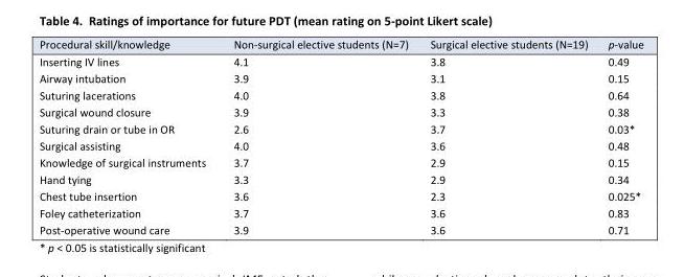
<table><thead><tr><td>Procedural skill/knowledge</td><td>Non-surgical elective students (N=7)</td><td>Surgical elective students (N=19)</td><td>p-value</td></tr></thead><tbody><tr><td>Inserting IV lines</td><td>4.1</td><td>3.8</td><td>0.49</td></tr><tr><td>Airway intubation</td><td>3.9</td><td>3.1</td><td>0.15</td></tr><tr><td>Suturing lacerations</td><td>4.0</td><td>3.8</td><td>0.64</td></tr><tr><td>Surgical wound closure</td><td>3.9</td><td>3.3</td><td>0.38</td></tr><tr><td>Suturing drain or tube in OR</td><td>2.6</td><td>3.7</td><td>0.03*</td></tr><tr><td>Surgical assisting</td><td>4.0</td><td>3.6</td><td>0.48</td></tr><tr><td>Knowledge of surgical instruments</td><td>3.7</td><td>2.9</td><td>0.15</td></tr><tr><td>Hand tying</td><td>3.3</td><td>2.9</td><td>0.34</td></tr><tr><td>Chest tube insertion</td><td>3.6</td><td>2.3</td><td>0.025*</td></tr><tr><td>Foley catheterization</td><td>3.7</td><td>3.6</td><td>0.83</td></tr><tr><td>Post-operative wound care</td><td>3.9</td><td>3.6</td><td>0.71</td></tr></tbody></table>